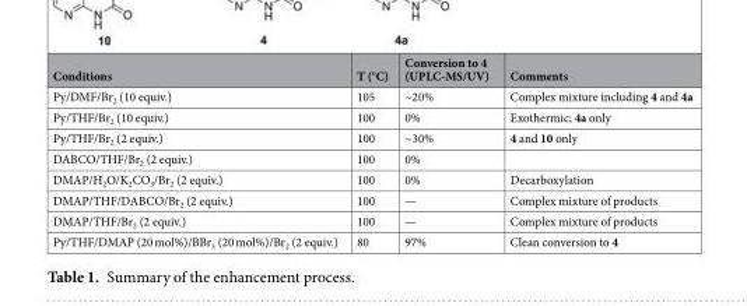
<table><thead><tr><td>Conditions</td><td>T (°C)</td><td>Conversion to 4 (UPLC-MS/UV)</td><td>Comments</td></tr></thead><tbody><tr><td>Py/DMF/Br<sub>2</sub> (10 equiv.)</td><td>105</td><td>~20%</td><td>Complex mixture including 4 and 4a</td></tr><tr><td>Py/THF/Br<sub>2</sub> (10 equiv.)</td><td>100</td><td>0%</td><td>Exothermic; 4a only</td></tr><tr><td>Py/THF/Br<sub>2</sub> (2 equiv.)</td><td>100</td><td>~30%</td><td>4 and 10 only</td></tr><tr><td>DABCO/THF/Br<sub>2</sub> (2 equiv.)</td><td>100</td><td>0%</td><td></td></tr><tr><td>DMAP/H<sub>2</sub>O/K<sub>2</sub>CO<sub>3</sub>/Br<sub>2</sub> (2 equiv.)</td><td>100</td><td>0%</td><td>Decarboxylation</td></tr><tr><td>DMAP/THF/DABCO/Br<sub>2</sub> (2 equiv.)</td><td>100</td><td>—</td><td>Complex mixture of products</td></tr><tr><td>DMAP/THF/Br<sub>2</sub> (2 equiv.)</td><td>100</td><td>—</td><td>Complex mixture of products</td></tr><tr><td>Py/THF/DMAP (20 mol%)/BBr<sub>3</sub> (20 mol%)/Br<sub>2</sub> (2 equiv.)</td><td>80</td><td>97%</td><td>Clean conversion to 4</td></tr></tbody></table>